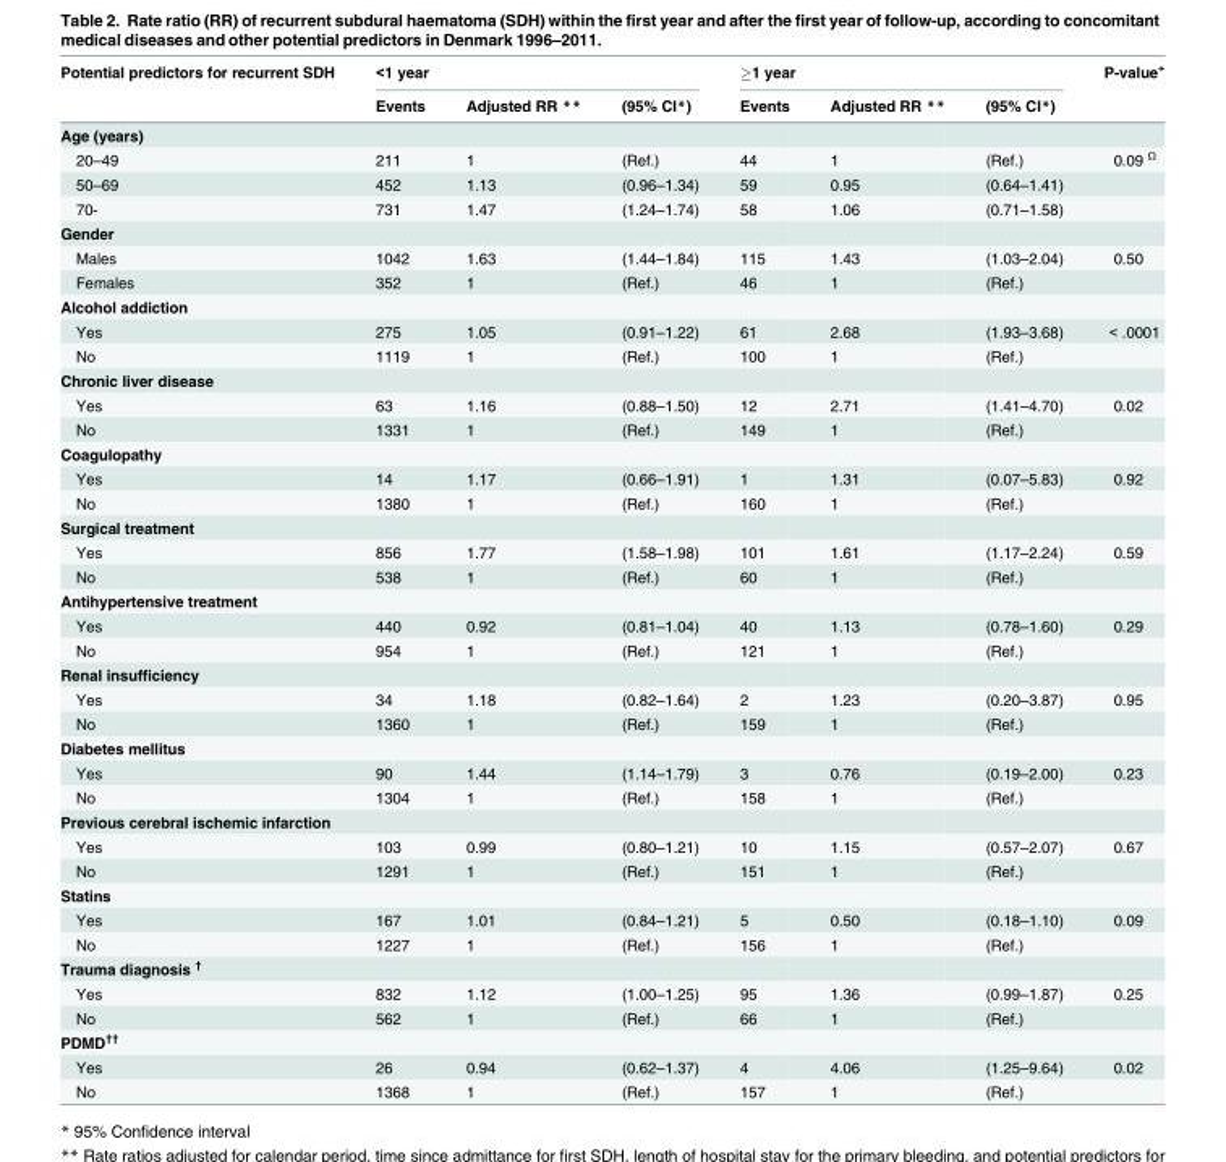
<table><thead><tr><td rowspan="2">Potential predictors for recurrent SDH</td><td colspan="3">&lt;1 year</td><td colspan="3">≥1 year</td><td rowspan="2">P-value<sup>+</sup></td></tr><tr><td>Events</td><td>Adjusted RR **</td><td>(95% CI*)</td><td>Events</td><td>Adjusted RR **</td><td>(95% CI*)</td></tr></thead><tbody><tr><td colspan="8">Age (years)</td></tr><tr><td>20–49</td><td>211</td><td>1</td><td>(Ref.)</td><td>44</td><td>1</td><td>(Ref.)</td><td>0.09 <sup>Ω</sup></td></tr><tr><td>50–69</td><td>452</td><td>1.13</td><td>(0.96–1.34)</td><td>59</td><td>0.95</td><td>(0.64–1.41)</td><td></td></tr><tr><td>70-</td><td>731</td><td>1.47</td><td>(1.24–1.74)</td><td>58</td><td>1.06</td><td>(0.71–1.58)</td><td></td></tr><tr><td colspan="8">Gender</td></tr><tr><td>Males</td><td>1042</td><td>1.63</td><td>(1.44–1.84)</td><td>115</td><td>1.43</td><td>(1.03–2.04)</td><td>0.50</td></tr><tr><td>Females</td><td>352</td><td>1</td><td>(Ref.)</td><td>46</td><td>1</td><td>(Ref.)</td><td></td></tr><tr><td colspan="8">Alcohol addiction</td></tr><tr><td>Yes</td><td>275</td><td>1.05</td><td>(0.91–1.22)</td><td>61</td><td>2.68</td><td>(1.93–3.68)</td><td>&lt; .0001</td></tr><tr><td>No</td><td>1119</td><td>1</td><td>(Ref.)</td><td>100</td><td>1</td><td>(Ref.)</td><td></td></tr><tr><td colspan="8">Chronic liver disease</td></tr><tr><td>Yes</td><td>63</td><td>1.16</td><td>(0.88–1.50)</td><td>12</td><td>2.71</td><td>(1.41–4.70)</td><td>0.02</td></tr><tr><td>No</td><td>1331</td><td>1</td><td>(Ref.)</td><td>149</td><td>1</td><td>(Ref.)</td><td></td></tr><tr><td colspan="8">Coagulopathy</td></tr><tr><td>Yes</td><td>14</td><td>1.17</td><td>(0.66–1.91)</td><td>1</td><td>1.31</td><td>(0.07–5.83)</td><td>0.92</td></tr><tr><td>No</td><td>1380</td><td>1</td><td>(Ref.)</td><td>160</td><td>1</td><td>(Ref.)</td><td></td></tr><tr><td colspan="8">Surgical treatment</td></tr><tr><td>Yes</td><td>856</td><td>1.77</td><td>(1.58–1.98)</td><td>101</td><td>1.61</td><td>(1.17–2.24)</td><td>0.59</td></tr><tr><td>No</td><td>538</td><td>1</td><td>(Ref.)</td><td>60</td><td>1</td><td>(Ref.)</td><td></td></tr><tr><td colspan="8">Antihypertensive treatment</td></tr><tr><td>Yes</td><td>440</td><td>0.92</td><td>(0.81–1.04)</td><td>40</td><td>1.13</td><td>(0.78–1.60)</td><td>0.29</td></tr><tr><td>No</td><td>954</td><td>1</td><td>(Ref.)</td><td>121</td><td>1</td><td>(Ref.)</td><td></td></tr><tr><td colspan="8">Renal insufficiency</td></tr><tr><td>Yes</td><td>34</td><td>1.18</td><td>(0.82–1.64)</td><td>2</td><td>1.23</td><td>(0.20–3.87)</td><td>0.95</td></tr><tr><td>No</td><td>1360</td><td>1</td><td>(Ref.)</td><td>159</td><td>1</td><td>(Ref.)</td><td></td></tr><tr><td colspan="8">Diabetes mellitus</td></tr><tr><td>Yes</td><td>90</td><td>1.44</td><td>(1.14–1.79)</td><td>3</td><td>0.76</td><td>(0.19–2.00)</td><td>0.23</td></tr><tr><td>No</td><td>1304</td><td>1</td><td>(Ref.)</td><td>158</td><td>1</td><td>(Ref.)</td><td></td></tr><tr><td colspan="8">Previous cerebral ischemic infarction</td></tr><tr><td>Yes</td><td>103</td><td>0.99</td><td>(0.80–1.21)</td><td>10</td><td>1.15</td><td>(0.57–2.07)</td><td>0.67</td></tr><tr><td>No</td><td>1291</td><td>1</td><td>(Ref.)</td><td>151</td><td>1</td><td>(Ref.)</td><td></td></tr><tr><td colspan="8">Statins</td></tr><tr><td>Yes</td><td>167</td><td>1.01</td><td>(0.84–1.21)</td><td>5</td><td>0.50</td><td>(0.18–1.10)</td><td>0.09</td></tr><tr><td>No</td><td>1227</td><td>1</td><td>(Ref.)</td><td>156</td><td>1</td><td>(Ref.)</td><td></td></tr><tr><td colspan="8">Trauma diagnosis <sup>†</sup></td></tr><tr><td>Yes</td><td>832</td><td>1.12</td><td>(1.00–1.25)</td><td>95</td><td>1.36</td><td>(0.99–1.87)</td><td>0.25</td></tr><tr><td>No</td><td>562</td><td>1</td><td>(Ref.)</td><td>66</td><td>1</td><td>(Ref.)</td><td></td></tr><tr><td colspan="8">PDMD<sup>††</sup></td></tr><tr><td>Yes</td><td>26</td><td>0.94</td><td>(0.62–1.37)</td><td>4</td><td>4.06</td><td>(1.25–9.64)</td><td>0.02</td></tr><tr><td>No</td><td>1368</td><td>1</td><td>(Ref.)</td><td>157</td><td>1</td><td>(Ref.)</td><td></td></tr></tbody></table>